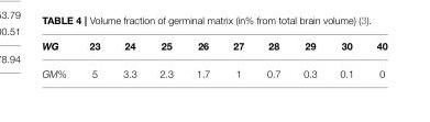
<table><thead><tr><td>WG</td><td>23</td><td>24</td><td>25</td><td>26</td><td>27</td><td>28</td><td>29</td><td>30</td><td>40</td></tr></thead><tbody><tr><td>GM%</td><td>5</td><td>3.3</td><td>2.3</td><td>1.7</td><td>1</td><td>0.7</td><td>0.3</td><td>0.1</td><td>0</td></tr></tbody></table>